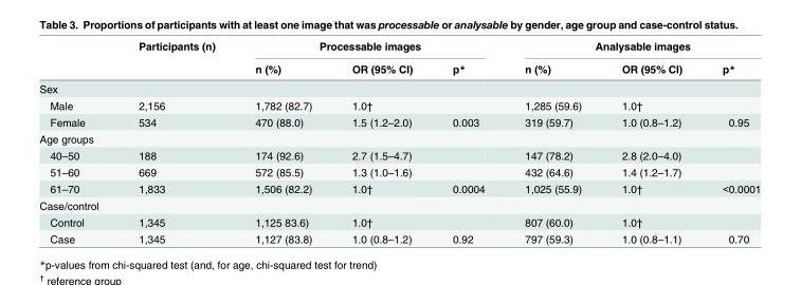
<table><thead><tr><td rowspan="2"></td><td rowspan="2">Participants (n)</td><td colspan="3">Processable images</td><td colspan="3">Analysable images</td></tr><tr><td>n (%)</td><td>OR (95% CI)</td><td>p*</td><td>n (%)</td><td>OR (95% CI)</td><td>p*</td></tr></thead><tbody><tr><td colspan="8">Sex</td></tr><tr><td>Male</td><td>2,156</td><td>1,782 (82.7)</td><td>1.0†</td><td></td><td>1,285 (59.6)</td><td>1.0†</td><td></td></tr><tr><td>Female</td><td>534</td><td>470 (88.0)</td><td>1.5 (1.2–2.0)</td><td>0.003</td><td>319 (59.7)</td><td>1.0 (0.8–1.2)</td><td>0.95</td></tr><tr><td colspan="8">Age groups</td></tr><tr><td>40–50</td><td>188</td><td>174 (92.6)</td><td>2.7 (1.5–4.7)</td><td></td><td>147 (78.2)</td><td>2.8 (2.0–4.0)</td><td></td></tr><tr><td>51–60</td><td>669</td><td>572 (85.5)</td><td>1.3 (1.0–1.6)</td><td></td><td>432 (64.6)</td><td>1.4 (1.2–1.7)</td><td></td></tr><tr><td>61–70</td><td>1,833</td><td>1,506 (82.2)</td><td>1.0†</td><td>0.0004</td><td>1,025 (55.9)</td><td>1.0†</td><td>&lt;0.0001</td></tr><tr><td colspan="8">Case/control</td></tr><tr><td>Control</td><td>1,345</td><td>1,125 83.6)</td><td>1.0†</td><td></td><td>807 (60.0)</td><td>1.0†</td><td></td></tr><tr><td>Case</td><td>1,345</td><td>1,127 (83.8)</td><td>1.0 (0.8–1.2)</td><td>0.92</td><td>797 (59.3)</td><td>1.0 (0.8–1.1)</td><td>0.70</td></tr></tbody></table>